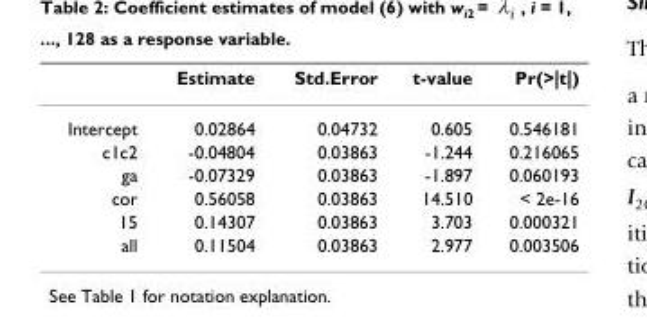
<table><thead><tr><td></td><td>Estimate</td><td>Std.Error</td><td>t-value</td><td>Pr(&gt;|t|)</td></tr></thead><tbody><tr><td>Intercept</td><td>0.02864</td><td>0.04732</td><td>0.605</td><td>0.546181</td></tr><tr><td>c1c2</td><td>-0.04804</td><td>0.03863</td><td>-1.244</td><td>0.216065</td></tr><tr><td>ga</td><td>-0.07329</td><td>0.03863</td><td>-1.897</td><td>0.060193</td></tr><tr><td>cor</td><td>0.56058</td><td>0.03863</td><td>14.510</td><td>&lt; 2e-16</td></tr><tr><td>15</td><td>0.14307</td><td>0.03863</td><td>3.703</td><td>0.000321</td></tr><tr><td>all</td><td>0.11504</td><td>0.03863</td><td>2.977</td><td>0.003506</td></tr></tbody></table>